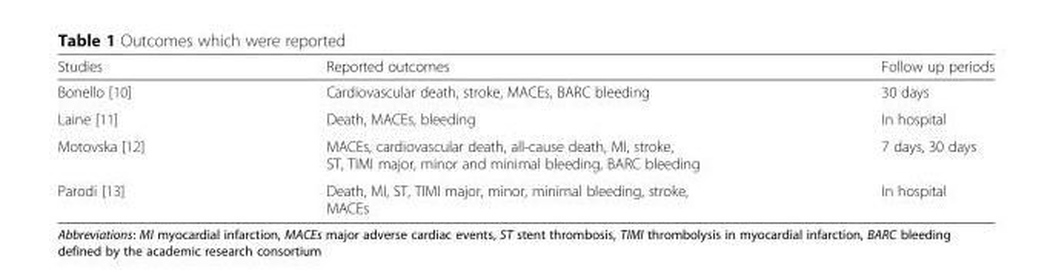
<table><thead><tr><td>Studies</td><td>Reported outcomes</td><td>Follow up periods</td></tr></thead><tbody><tr><td>Bonello [10]</td><td>Cardiovascular death, stroke, MACEs, BARC bleeding</td><td>30 days</td></tr><tr><td>Laine [11]</td><td>Death, MACEs, bleeding</td><td>In hospital</td></tr><tr><td>Motovska [12]</td><td>MACEs, cardiovascular death, all-cause death, MI, stroke, ST, TIMI major, minor and minimal bleeding, BARC bleeding</td><td>7 days, 30 days</td></tr><tr><td>Parodi [13]</td><td>Death, MI, ST, TIMI major, minor, minimal bleeding, stroke, MACEs</td><td>In hospital</td></tr></tbody></table>